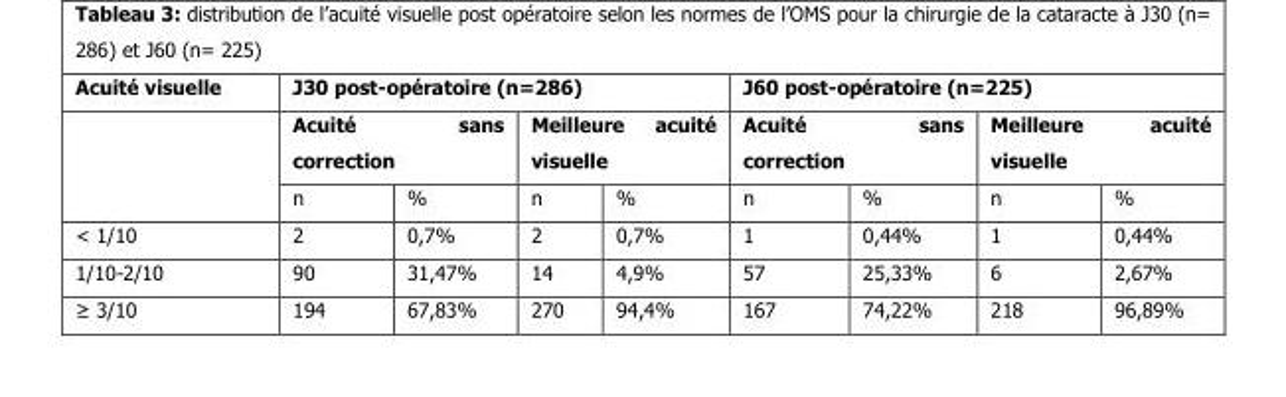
<table><thead><tr><td rowspan="3">Acuité visuelle</td><td colspan="4">J30 post-opératoire (n=286)</td><td colspan="4">J60 post-opératoire (n=225)</td></tr><tr><td colspan="2">Acuité sans correction</td><td colspan="2">Meilleure acuité visuelle</td><td colspan="2">Acuité sans correction</td><td colspan="2">Meilleure acuité visuelle</td></tr><tr><td>n</td><td>%</td><td>n</td><td>%</td><td>n</td><td>%</td><td>n</td><td>%</td></tr></thead><tbody><tr><td>&lt; 1/10</td><td>2</td><td>0,7%</td><td>2</td><td>0,7%</td><td>1</td><td>0,44%</td><td>1</td><td>0,44%</td></tr><tr><td>1/10-2/10</td><td>90</td><td>31,47%</td><td>14</td><td>4,9%</td><td>57</td><td>25,33%</td><td>6</td><td>2,67%</td></tr><tr><td>≥ 3/10</td><td>194</td><td>67,83%</td><td>270</td><td>94,4%</td><td>167</td><td>74,22%</td><td>218</td><td>96,89%</td></tr></tbody></table>